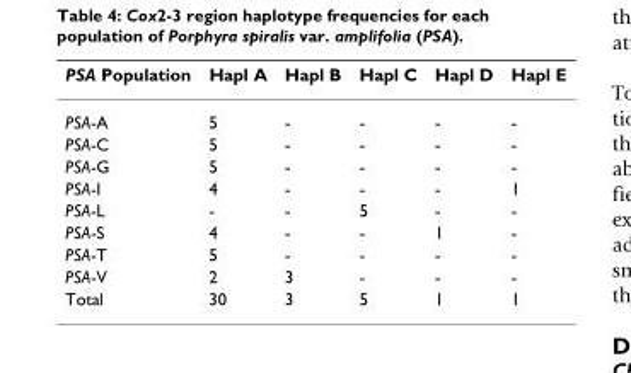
<table><thead><tr><td>PSA Population</td><td>Hapl A</td><td>Hapl B</td><td>Hapl C</td><td>Hapl D</td><td>Hapl E</td></tr></thead><tbody><tr><td>PSA-A</td><td>5</td><td>-</td><td>-</td><td>-</td><td>-</td></tr><tr><td>PSA-C</td><td>5</td><td>-</td><td>-</td><td>-</td><td>-</td></tr><tr><td>PSA-G</td><td>5</td><td>-</td><td>-</td><td>-</td><td>-</td></tr><tr><td>PSA-I</td><td>4</td><td>-</td><td>-</td><td>-</td><td>1</td></tr><tr><td>PSA-L</td><td>-</td><td>-</td><td>5</td><td>-</td><td>-</td></tr><tr><td>PSA-S</td><td>4</td><td>-</td><td>-</td><td>1</td><td>-</td></tr><tr><td>PSA-T</td><td>5</td><td>-</td><td>-</td><td>-</td><td>-</td></tr><tr><td>PSA-V</td><td>2</td><td>3</td><td>-</td><td>-</td><td>-</td></tr><tr><td>Total</td><td>30</td><td>3</td><td>5</td><td>1</td><td>1</td></tr></tbody></table>